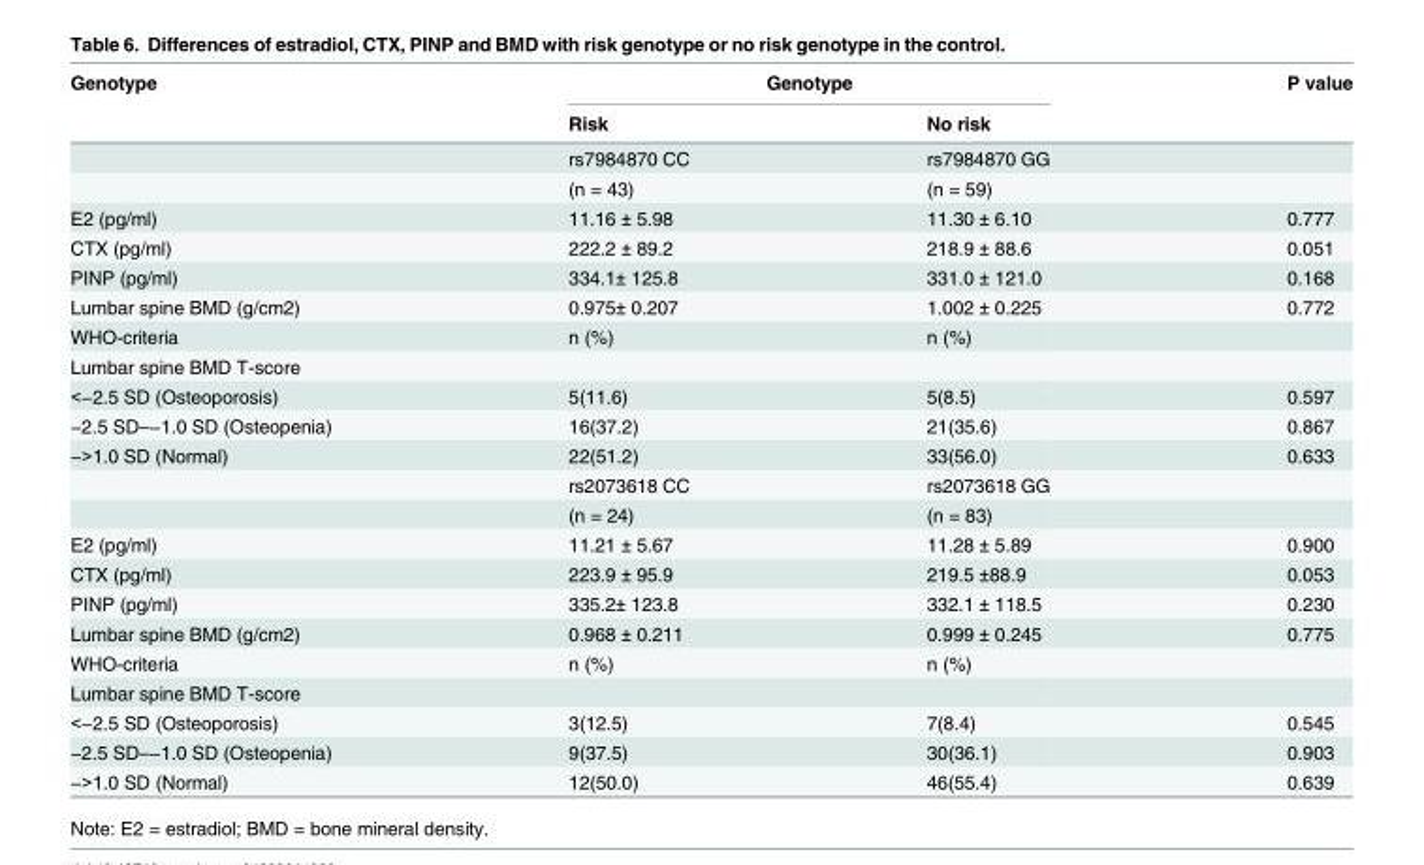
<table><thead><tr><td rowspan="2">Genotype</td><td colspan="2">Genotype</td><td rowspan="2">P value</td></tr><tr><td>Risk</td><td>No risk</td></tr></thead><tbody><tr><td></td><td>rs7984870 CC</td><td>rs7984870 GG</td><td></td></tr><tr><td></td><td>(n = 43)</td><td>(n = 59)</td><td></td></tr><tr><td>E2 (pg/ml)</td><td>11.16 ± 5.98</td><td>11.30 ± 6.10</td><td>0.777</td></tr><tr><td>CTX (pg/ml)</td><td>222.2 ± 89.2</td><td>218.9 ± 88.6</td><td>0.051</td></tr><tr><td>PINP (pg/ml)</td><td>334.1± 125.8</td><td>331.0 ± 121.0</td><td>0.168</td></tr><tr><td>Lumbar spine BMD (g/cm2)</td><td>0.975± 0.207</td><td>1.002 ± 0.225</td><td>0.772</td></tr><tr><td>WHO-criteria</td><td>n (%)</td><td>n (%)</td><td></td></tr><tr><td colspan="4">Lumbar spine BMD T-score</td></tr><tr><td>&lt;−2.5 SD (Osteoporosis)</td><td>5(11.6)</td><td>5(8.5)</td><td>0.597</td></tr><tr><td>−2.5 SD–−1.0 SD (Osteopenia)</td><td>16(37.2)</td><td>21(35.6)</td><td>0.867</td></tr><tr><td rowspan="3">−&gt;1.0 SD (Normal)</td><td>22(51.2)</td><td>33(56.0)</td><td>0.633</td></tr><tr><td>rs2073618 CC</td><td>rs2073618 GG</td><td></td></tr><tr><td>(n = 24)</td><td>(n = 83)</td><td></td></tr><tr><td>E2 (pg/ml)</td><td>11.21 ± 5.67</td><td>11.28 ± 5.89</td><td>0.900</td></tr><tr><td>CTX (pg/ml)</td><td>223.9 ± 95.9</td><td>219.5 ±88.9</td><td>0.053</td></tr><tr><td>PINP (pg/ml)</td><td>335.2± 123.8</td><td>332.1 ± 118.5</td><td>0.230</td></tr><tr><td>Lumbar spine BMD (g/cm2)</td><td>0.968 ± 0.211</td><td>0.999 ± 0.245</td><td>0.775</td></tr><tr><td>WHO-criteria</td><td>n (%)</td><td>n (%)</td><td></td></tr><tr><td colspan="4">Lumbar spine BMD T-score</td></tr><tr><td>&lt;−2.5 SD (Osteoporosis)</td><td>3(12.5)</td><td>7(8.4)</td><td>0.545</td></tr><tr><td>−2.5 SD–−1.0 SD (Osteopenia)</td><td>9(37.5)</td><td>30(36.1)</td><td>0.903</td></tr><tr><td>−&gt;1.0 SD (Normal)</td><td>12(50.0)</td><td>46(55.4)</td><td>0.639</td></tr></tbody></table>